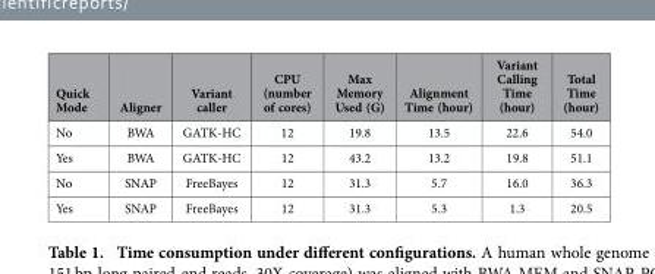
<table><thead><tr><td>Quick Mode</td><td>Aligner</td><td>Variant caller</td><td>CPU (number of cores)</td><td>Max Memory Used (G)</td><td>Alignment Time (hour)</td><td>Variant Calling Time (hour)</td><td>Total Time (hour)</td></tr></thead><tbody><tr><td>No</td><td>BWA</td><td>GATK-HC</td><td>12</td><td>19.8</td><td>13.5</td><td>22.6</td><td>54.0</td></tr><tr><td>Yes</td><td>BWA</td><td>GATK-HC</td><td>12</td><td>43.2</td><td>13.2</td><td>19.8</td><td>51.1</td></tr><tr><td>No</td><td>SNAP</td><td>FreeBayes</td><td>12</td><td>31.3</td><td>5.7</td><td>16.0</td><td>36.3</td></tr><tr><td>Yes</td><td>SNAP</td><td>FreeBayes</td><td>12</td><td>31.3</td><td>5.3</td><td>1.3</td><td>20.5</td></tr></tbody></table>